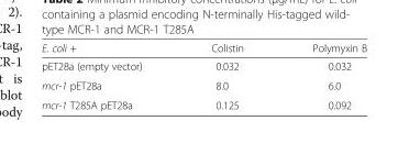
<table><thead><tr><td>E. coli +</td><td>Colistin</td><td>Polymyxin B</td></tr></thead><tbody><tr><td>pET28a (empty vector)</td><td>0.032</td><td>0.032</td></tr><tr><td>mcr-1 pET28a</td><td>8.0</td><td>6.0</td></tr><tr><td>mcr-1 T285A pET28a</td><td>0.125</td><td>0.092</td></tr></tbody></table>